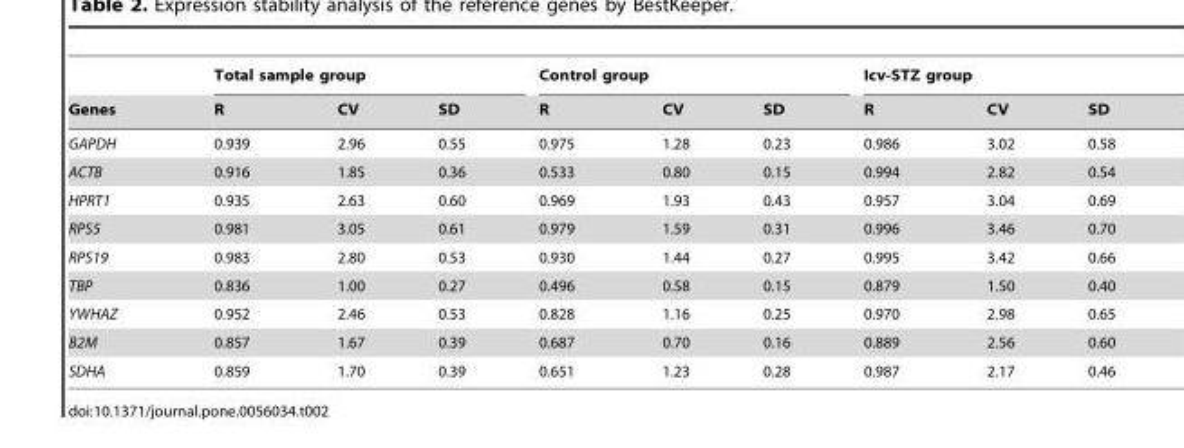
<table><thead><tr><td rowspan="2">Genes</td><td colspan="3">Total sample group</td><td colspan="3">Control group</td><td colspan="3">Icv-STZ group</td></tr><tr><td>R</td><td>CV</td><td>SD</td><td>R</td><td>CV</td><td>SD</td><td>R</td><td>CV</td><td>SD</td></tr></thead><tbody><tr><td>GAPDH</td><td>0.939</td><td>2.96</td><td>0.55</td><td>0.975</td><td>1.28</td><td>0.23</td><td>0.986</td><td>3.02</td><td>0.58</td></tr><tr><td>ACTB</td><td>0.916</td><td>1.85</td><td>0.36</td><td>0.533</td><td>0.80</td><td>0.15</td><td>0.994</td><td>2.82</td><td>0.54</td></tr><tr><td>HPRT1</td><td>0.935</td><td>2.63</td><td>0.60</td><td>0.969</td><td>1.93</td><td>0.43</td><td>0.957</td><td>3.04</td><td>0.69</td></tr><tr><td>RPS5</td><td>0.981</td><td>3.05</td><td>0.61</td><td>0.979</td><td>1.59</td><td>0.31</td><td>0.996</td><td>3.46</td><td>0.70</td></tr><tr><td>RPS19</td><td>0.983</td><td>2.80</td><td>0.53</td><td>0.930</td><td>1.44</td><td>0.27</td><td>0.995</td><td>3.42</td><td>0.66</td></tr><tr><td>TBP</td><td>0.836</td><td>1.00</td><td>0.27</td><td>0.496</td><td>0.58</td><td>0.15</td><td>0.879</td><td>1.50</td><td>0.40</td></tr><tr><td>YWHAZ</td><td>0.952</td><td>2.46</td><td>0.53</td><td>0.828</td><td>1.16</td><td>0.25</td><td>0.970</td><td>2.98</td><td>0.65</td></tr><tr><td>B2M</td><td>0.857</td><td>1.67</td><td>0.39</td><td>0.687</td><td>0.70</td><td>0.16</td><td>0.889</td><td>2.56</td><td>0.60</td></tr><tr><td>SDHA</td><td>0.859</td><td>1.70</td><td>0.39</td><td>0.651</td><td>1.23</td><td>0.28</td><td>0.987</td><td>2.17</td><td>0.46</td></tr></tbody></table>